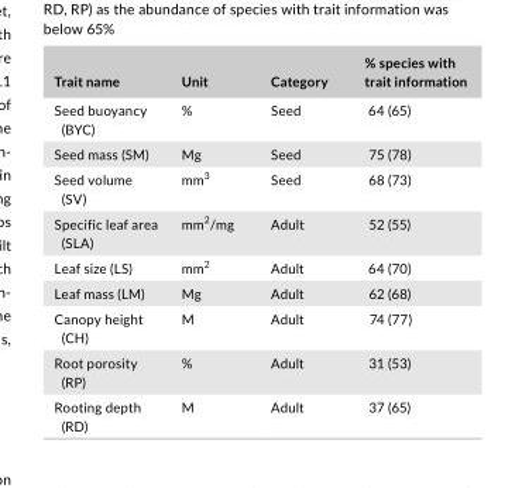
<table><thead><tr><td>Trait name</td><td>Unit</td><td>Category</td><td>% species with trait information</td></tr></thead><tbody><tr><td>Seed buoyancy (BYC)</td><td>%</td><td>Seed</td><td>64 (65)</td></tr><tr><td>Seed mass (SM)</td><td>Mg</td><td>Seed</td><td>75 (78)</td></tr><tr><td>Seed volume (SV)</td><td>mm<sup>3</sup></td><td>Seed</td><td>68 (73)</td></tr><tr><td>Specific leaf area (SLA)</td><td>mm<sup>2</sup>/mg</td><td>Adult</td><td>52 (55)</td></tr><tr><td>Leaf size (LS)</td><td>mm<sup>2</sup></td><td>Adult</td><td>64 (70)</td></tr><tr><td>Leaf mass (LM)</td><td>Mg</td><td>Adult</td><td>62 (68)</td></tr><tr><td>Canopy height (CH)</td><td>M</td><td>Adult</td><td>74 (77)</td></tr><tr><td>Root porosity (RP)</td><td>%</td><td>Adult</td><td>31 (53)</td></tr><tr><td>Rooting depth (RD)</td><td>M</td><td>Adult</td><td>37 (65)</td></tr></tbody></table>